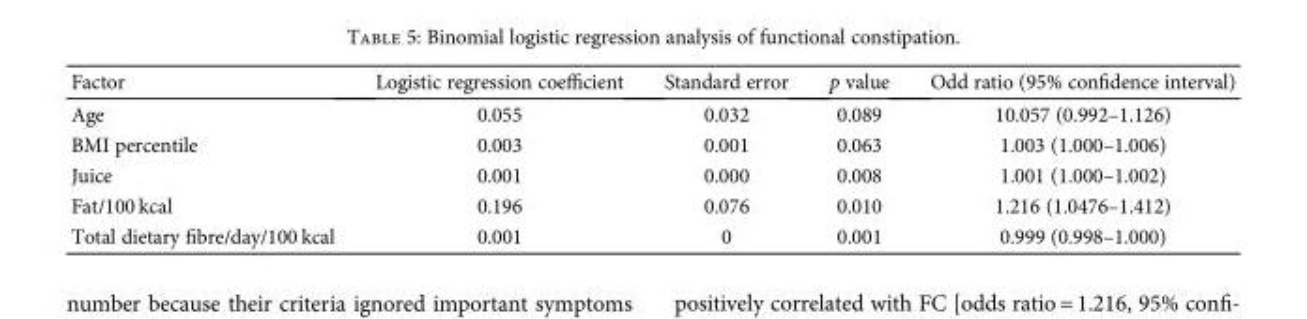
<table><thead><tr><td>Factor</td><td>Logistic regression coefficient</td><td>Standard error</td><td>p value</td><td>Odd ratio (95% confidence interval)</td></tr></thead><tbody><tr><td>Age</td><td>0.055</td><td>0.032</td><td>0.089</td><td>10.057 (0.992–1.126)</td></tr><tr><td>BMI percentile</td><td>0.003</td><td>0.001</td><td>0.063</td><td>1.003 (1.000–1.006)</td></tr><tr><td>Juice</td><td>0.001</td><td>0.000</td><td>0.008</td><td>1.001 (1.000–1.002)</td></tr><tr><td>Fat/100 kcal</td><td>0.196</td><td>0.076</td><td>0.010</td><td>1.216 (1.0476–1.412)</td></tr><tr><td>Total dietary fibre/day/100 kcal</td><td>0.001</td><td>0</td><td>0.001</td><td>0.999 (0.998–1.000)</td></tr></tbody></table>